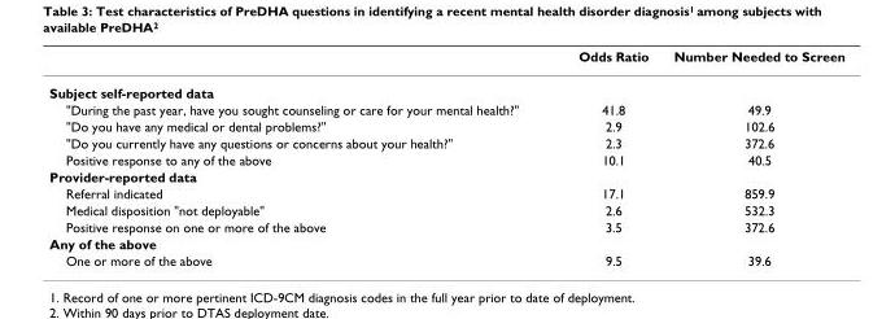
<table><thead><tr><td></td><td>Odds Ratio</td><td>Number Needed to Screen</td></tr></thead><tbody><tr><td colspan="3">Subject self-reported data</td></tr><tr><td>&quot;During the past year, have you sought counseling or care for your mental health?&quot;</td><td>41.8</td><td>49.9</td></tr><tr><td>&quot;Do you have any medical or dental problems?&quot;</td><td>2.9</td><td>102.6</td></tr><tr><td>&quot;Do you currently have any questions or concerns about your health?&quot;</td><td>2.3</td><td>372.6</td></tr><tr><td>Positive response to any of the above</td><td>10.1</td><td>40.5</td></tr><tr><td colspan="3">Provider-reported data</td></tr><tr><td>Referral indicated</td><td>17.1</td><td>859.9</td></tr><tr><td>Medical disposition &quot;not deployable&quot;</td><td>2.6</td><td>532.3</td></tr><tr><td>Positive response on one or more of the above</td><td>3.5</td><td>372.6</td></tr><tr><td colspan="3">Any of the above</td></tr><tr><td>One or more of the above</td><td>9.5</td><td>39.6</td></tr></tbody></table>